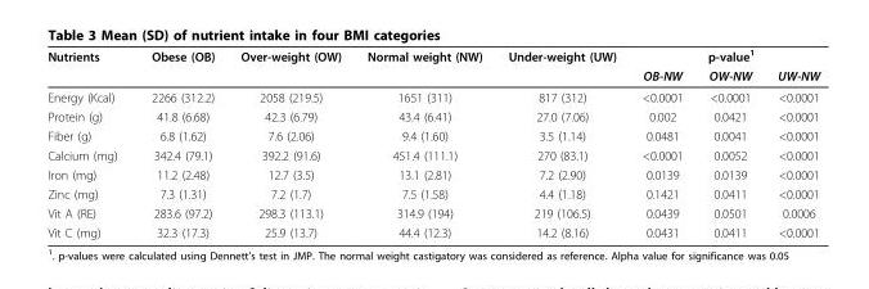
<table><thead><tr><td rowspan="2">Nutrients</td><td rowspan="2">Obese (OB)</td><td rowspan="2">Over-weight (OW)</td><td rowspan="2">Normal weight (NW)</td><td rowspan="2">Under-weight (UW)</td><td colspan="3">p-value<sup>1</sup></td></tr><tr><td>OB-NW</td><td>OW-NW</td><td>UW-NW</td></tr></thead><tbody><tr><td>Energy (Kcal)</td><td>2266 (312.2)</td><td>2058 (219.5)</td><td>1651 (311)</td><td>817 (312)</td><td>&lt;0.0001</td><td>&lt;0.0001</td><td>&lt;0.0001</td></tr><tr><td>Protein (g)</td><td>41.8 (6.68)</td><td>42.3 (6.79)</td><td>43.4 (6.41)</td><td>27.0 (7.06)</td><td>0.002</td><td>0.0421</td><td>&lt;0.0001</td></tr><tr><td>Fiber (g)</td><td>6.8 (1.62)</td><td>7.6 (2.06)</td><td>9.4 (1.60)</td><td>3.5 (1.14)</td><td>0.0481</td><td>0.0041</td><td>&lt;0.0001</td></tr><tr><td>Calcium (mg)</td><td>342.4 (79.1)</td><td>392.2 (91.6)</td><td>451.4 (111.1)</td><td>270 (83.1)</td><td>&lt;0.0001</td><td>0.0052</td><td>&lt;0.0001</td></tr><tr><td>Iron (mg)</td><td>11.2 (2.48)</td><td>12.7 (3.5)</td><td>13.1 (2.81)</td><td>7.2 (2.90)</td><td>0.0139</td><td>0.0139</td><td>&lt;0.0001</td></tr><tr><td>Zinc (mg)</td><td>7.3 (1.31)</td><td>7.2 (1.7)</td><td>7.5 (1.58)</td><td>4.4 (1.18)</td><td>0.1421</td><td>0.0411</td><td>&lt;0.0001</td></tr><tr><td>Vit A (RE)</td><td>283.6 (97.2)</td><td>298.3 (113.1)</td><td>314.9 (194)</td><td>219 (106.5)</td><td>0.0439</td><td>0.0501</td><td>0.0006</td></tr><tr><td>Vit C (mg)</td><td>32.3 (17.3)</td><td>25.9 (13.7)</td><td>44.4 (12.3)</td><td>14.2 (8.16)</td><td>0.0431</td><td>0.0411</td><td>&lt;0.0001</td></tr></tbody></table>